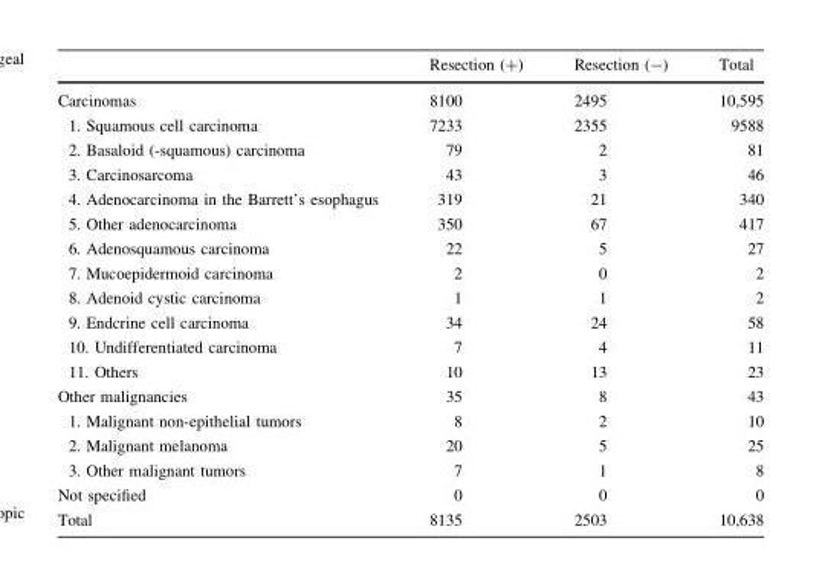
<table><thead><tr><td></td><td>Resection (+)</td><td>Resection (-)</td><td>Total</td></tr></thead><tbody><tr><td>Carcinomas</td><td>8100</td><td>2495</td><td>10,595</td></tr><tr><td>1. Squamous cell carcinoma</td><td>7233</td><td>2355</td><td>9588</td></tr><tr><td>2. Basaloid (-squamous) carcinoma</td><td>79</td><td>2</td><td>81</td></tr><tr><td>3. Carcinosarcoma</td><td>43</td><td>3</td><td>46</td></tr><tr><td>4. Adenocarcinoma in the Barrett’s esophagus</td><td>319</td><td>21</td><td>340</td></tr><tr><td>5. Other adenocarcinoma</td><td>350</td><td>67</td><td>417</td></tr><tr><td>6. Adenosquamous carcinoma</td><td>22</td><td>5</td><td>27</td></tr><tr><td>7. Mucoepidermoid carcinoma</td><td>2</td><td>0</td><td>2</td></tr><tr><td>8. Adenoid cystic carcinoma</td><td>1</td><td>1</td><td>2</td></tr><tr><td>9. Endcrine cell carcinoma</td><td>34</td><td>24</td><td>58</td></tr><tr><td>10. Undifferentiated carcinoma</td><td>7</td><td>4</td><td>11</td></tr><tr><td>11. Others</td><td>10</td><td>13</td><td>23</td></tr><tr><td>Other malignancies</td><td>35</td><td>8</td><td>43</td></tr><tr><td>1. Malignant non-epithelial tumors</td><td>8</td><td>2</td><td>10</td></tr><tr><td>2. Malignant melanoma</td><td>20</td><td>5</td><td>25</td></tr><tr><td>3. Other malignant tumors</td><td>7</td><td>1</td><td>8</td></tr><tr><td>Not specified</td><td>0</td><td>0</td><td>0</td></tr><tr><td>Total</td><td>8135</td><td>2503</td><td>10,638</td></tr></tbody></table>